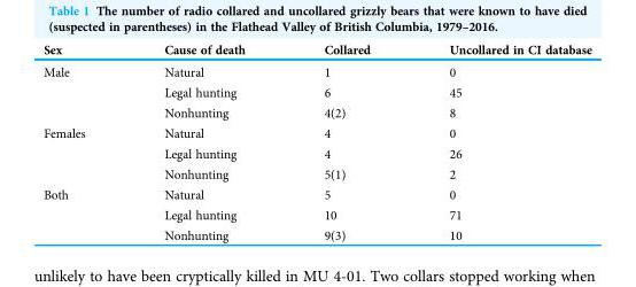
<table><thead><tr><td>Sex</td><td>Cause of death</td><td>Collared</td><td>Uncollared in CI database</td></tr></thead><tbody><tr><td rowspan="3">Male</td><td>Natural</td><td>1</td><td>0</td></tr><tr><td>Legal hunting</td><td>6</td><td>45</td></tr><tr><td>Nonhunting</td><td>4(2)</td><td>8</td></tr><tr><td rowspan="3">Females</td><td>Natural</td><td>4</td><td>0</td></tr><tr><td>Legal hunting</td><td>4</td><td>26</td></tr><tr><td>Nonhunting</td><td>5(1)</td><td>2</td></tr><tr><td rowspan="3">Both</td><td>Natural</td><td>5</td><td>0</td></tr><tr><td>Legal hunting</td><td>10</td><td>71</td></tr><tr><td>Nonhunting</td><td>9(3)</td><td>10</td></tr></tbody></table>